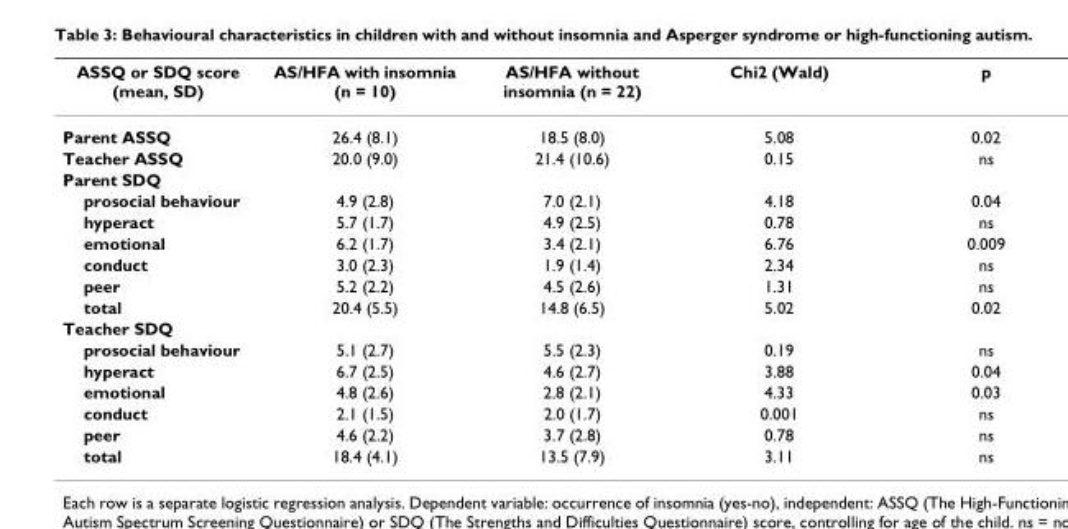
<table><thead><tr><td>ASSQ or SDQ score (mean, SD)</td><td>AS/HFA with insomnia (n = 10)</td><td>AS/HFA without insomnia (n = 22)</td><td>Chi2 (Wald)</td><td>p</td></tr></thead><tbody><tr><td>Parent ASSQ</td><td>26.4 (8.1)</td><td>18.5 (8.0)</td><td>5.08</td><td>0.02</td></tr><tr><td>Teacher ASSQ</td><td>20.0 (9.0)</td><td>21.4 (10.6)</td><td>0.15</td><td>ns</td></tr><tr><td colspan="5">Parent SDQ</td></tr><tr><td>prosocial behaviour</td><td>4.9 (2.8)</td><td>7.0 (2.1)</td><td>4.18</td><td>0.04</td></tr><tr><td>hyperact</td><td>5.7 (1.7)</td><td>4.9 (2.5)</td><td>0.78</td><td>ns</td></tr><tr><td>emotional</td><td>6.2 (1.7)</td><td>3.4 (2.1)</td><td>6.76</td><td>0.009</td></tr><tr><td>conduct</td><td>3.0 (2.3)</td><td>1.9 (1.4)</td><td>2.34</td><td>ns</td></tr><tr><td>peer</td><td>5.2 (2.2)</td><td>4.5 (2.6)</td><td>1.31</td><td>ns</td></tr><tr><td>total</td><td>20.4 (5.5)</td><td>14.8 (6.5)</td><td>5.02</td><td>0.02</td></tr><tr><td colspan="5">Teacher SDQ</td></tr><tr><td>prosocial behaviour</td><td>5.1 (2.7)</td><td>5.5 (2.3)</td><td>0.19</td><td>ns</td></tr><tr><td>hyperact</td><td>6.7 (2.5)</td><td>4.6 (2.7)</td><td>3.88</td><td>0.04</td></tr><tr><td>emotional</td><td>4.8 (2.6)</td><td>2.8 (2.1)</td><td>4.33</td><td>0.03</td></tr><tr><td>conduct</td><td>2.1 (1.5)</td><td>2.0 (1.7)</td><td>0.001</td><td>ns</td></tr><tr><td>peer</td><td>4.6 (2.2)</td><td>3.7 (2.8)</td><td>0.78</td><td>ns</td></tr><tr><td>total</td><td>18.4 (4.1)</td><td>13.5 (7.9)</td><td>3.11</td><td>ns</td></tr></tbody></table>